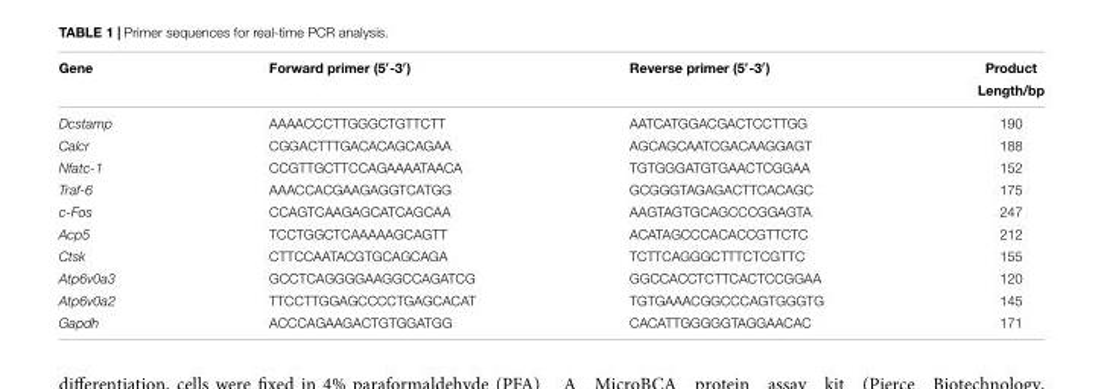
<table><thead><tr><td>Gene</td><td>Forward primer (5′-3′)</td><td>Reverse primer (5′-3′)</td><td>Product Length/bp</td></tr></thead><tbody><tr><td>Dcstamp</td><td>AAAACCCTTGGGCTGTTCTT</td><td>AATCATGGACGACTCCTTGG</td><td>190</td></tr><tr><td>Calcr</td><td>CGGACTTTGACACAGCAGAA</td><td>AGCAGCAATCGACAAGGAGT</td><td>188</td></tr><tr><td>Nfatc-1</td><td>CCGTTGCTTCCAGAAAATAACA</td><td>TGTGGGATGTGAACTCGGAA</td><td>152</td></tr><tr><td>Traf-6</td><td>AAACCACGAAGAGGTCATGG</td><td>GCGGGTAGAGACTTCACAGC</td><td>175</td></tr><tr><td>c-Fos</td><td>CCAGTCAAGAGCATCAGCAA</td><td>AAGTAGTGCAGCCCGGAGTA</td><td>247</td></tr><tr><td>Acp5</td><td>TCCTGGCTCAAAAAGCAGTT</td><td>ACATAGCCCACACCGTTCTC</td><td>212</td></tr><tr><td>Ctsk</td><td>CTTCCAATACGTGCAGCAGA</td><td>TCTTCAGGGCTTTCTCGTTC</td><td>155</td></tr><tr><td>Atp6v0a3</td><td>GCCTCAGGGGAAGGCCAGATCG</td><td>GGCCACCTCTTCACTCCGGAA</td><td>120</td></tr><tr><td>Atp6v0a2</td><td>TTCCTTGGAGCCCCTGAGCACAT</td><td>TGTGAAACGGCCCAGTGGGTG</td><td>145</td></tr><tr><td>Gapdh</td><td>ACCCAGAAGACTGTGGATGG</td><td>CACATTGGGGGTAGGAACAC</td><td>171</td></tr></tbody></table>